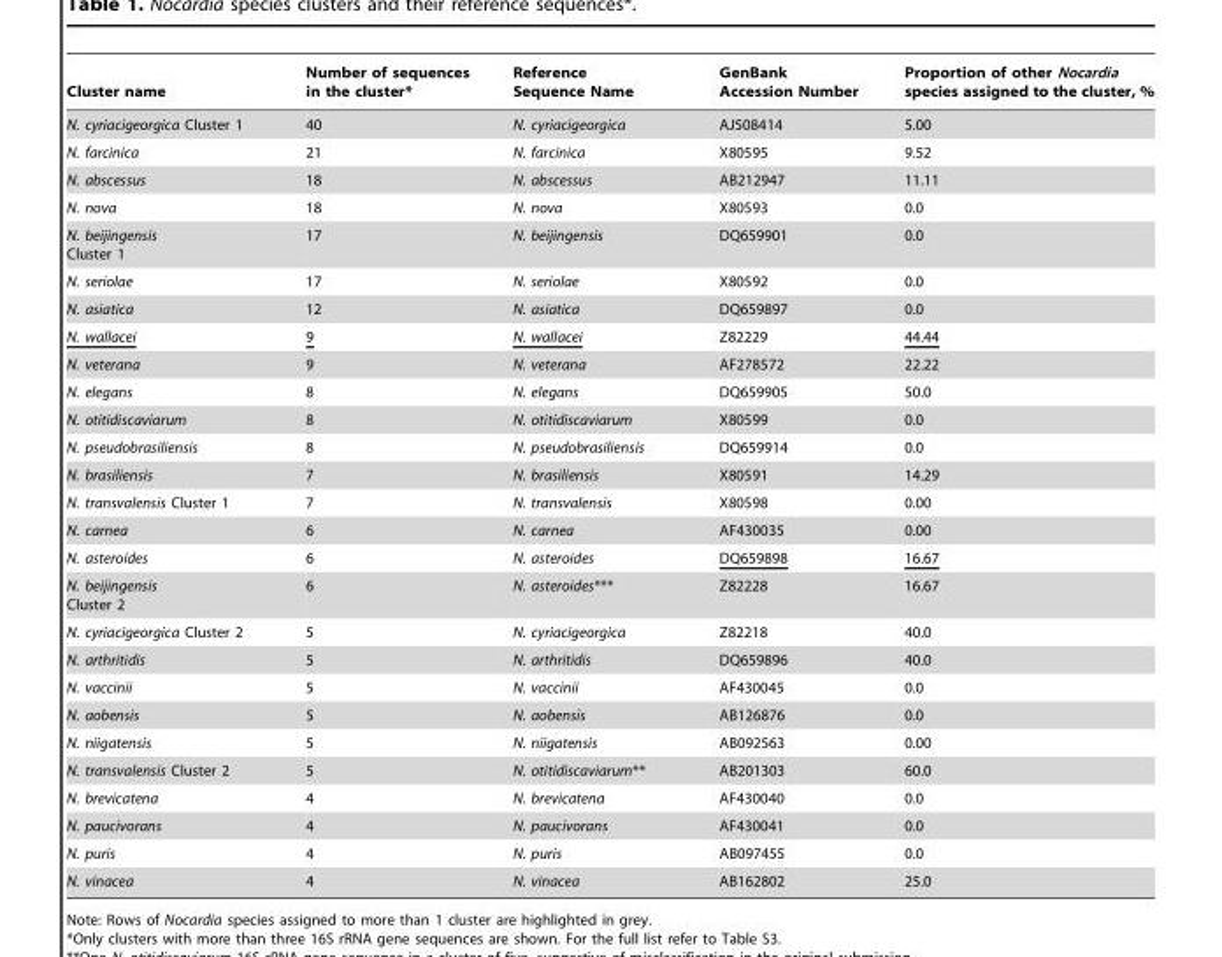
<table><thead><tr><td>Cluster name</td><td>Number of sequences in the cluster*</td><td>Reference Sequence Name</td><td>GenBank Accession Number</td><td>Proportion of other Nocardia species assigned to the cluster, %</td></tr></thead><tbody><tr><td>N. cyriacigeorgica Cluster 1</td><td>40</td><td>N. cyriacigeorgica</td><td>AJ508414</td><td>5.00</td></tr><tr><td>N. farcinica</td><td>21</td><td>N. farcinica</td><td>X80595</td><td>9.52</td></tr><tr><td>N. abscessus</td><td>18</td><td>N. abscessus</td><td>AB212947</td><td>11.11</td></tr><tr><td>N. nova</td><td>18</td><td>N. nova</td><td>X80593</td><td>0.0</td></tr><tr><td>N. beijingensis Cluster 1</td><td>17</td><td>N. beijingensis</td><td>DQ659901</td><td>0.0</td></tr><tr><td>N. seriolae</td><td>17</td><td>N. seriolae</td><td>X80592</td><td>0.0</td></tr><tr><td>N. asiatica</td><td>12</td><td>N. asiatica</td><td>DQ659897</td><td>0.0</td></tr><tr><td>N. wallacei</td><td>9</td><td>N. wallacei</td><td>Z82229</td><td>44.44</td></tr><tr><td>N. veterana</td><td>9</td><td>N. veterana</td><td>AF278572</td><td>22.22</td></tr><tr><td>N. elegans</td><td>8</td><td>N. elegans</td><td>DQ659905</td><td>50.0</td></tr><tr><td>N. otitidiscaviarum</td><td>8</td><td>N. otitidiscaviarum</td><td>X80599</td><td>0.0</td></tr><tr><td>N. pseudobrasiliensis</td><td>8</td><td>N. pseudobrasiliensis</td><td>DQ659914</td><td>0.0</td></tr><tr><td>N. brasiliensis</td><td>7</td><td>N. brasiliensis</td><td>X80591</td><td>14.29</td></tr><tr><td>N. transvalensis Cluster 1</td><td>7</td><td>N. transvalensis</td><td>X80598</td><td>0.00</td></tr><tr><td>N. carnea</td><td>6</td><td>N. carnea</td><td>AF430035</td><td>0.00</td></tr><tr><td>N. asteroides</td><td>6</td><td>N. asteroides</td><td>DQ659898</td><td>16.67</td></tr><tr><td>N. beijingensis Cluster 2</td><td>6</td><td>N. asteroides***</td><td>Z82228</td><td>16.67</td></tr><tr><td>N. cyriacigeorgica Cluster 2</td><td>5</td><td>N. cyriacigeorgica</td><td>Z82218</td><td>40.0</td></tr><tr><td>N. arthritidis</td><td>5</td><td>N. arthritidis</td><td>DQ659896</td><td>40.0</td></tr><tr><td>N. vaccinii</td><td>5</td><td>N. vaccinii</td><td>AF430045</td><td>0.0</td></tr><tr><td>N. aobensis</td><td>5</td><td>N. aobensis</td><td>AB126876</td><td>0.0</td></tr><tr><td>N. niigatensis</td><td>5</td><td>N. niigatensis</td><td>AB092563</td><td>0.00</td></tr><tr><td>N. transvalensis Cluster 2</td><td>5</td><td>N. otitidiscaviarum**</td><td>AB201303</td><td>60.0</td></tr><tr><td>N. brevicatena</td><td>4</td><td>N. brevicatena</td><td>AF430040</td><td>0.0</td></tr><tr><td>N. paucivorans</td><td>4</td><td>N. paucivorans</td><td>AF430041</td><td>0.0</td></tr><tr><td>N. puris</td><td>4</td><td>N. puris</td><td>AB097455</td><td>0.0</td></tr><tr><td>N. vinacea</td><td>4</td><td>N. vinacea</td><td>AB162802</td><td>25.0</td></tr></tbody></table>